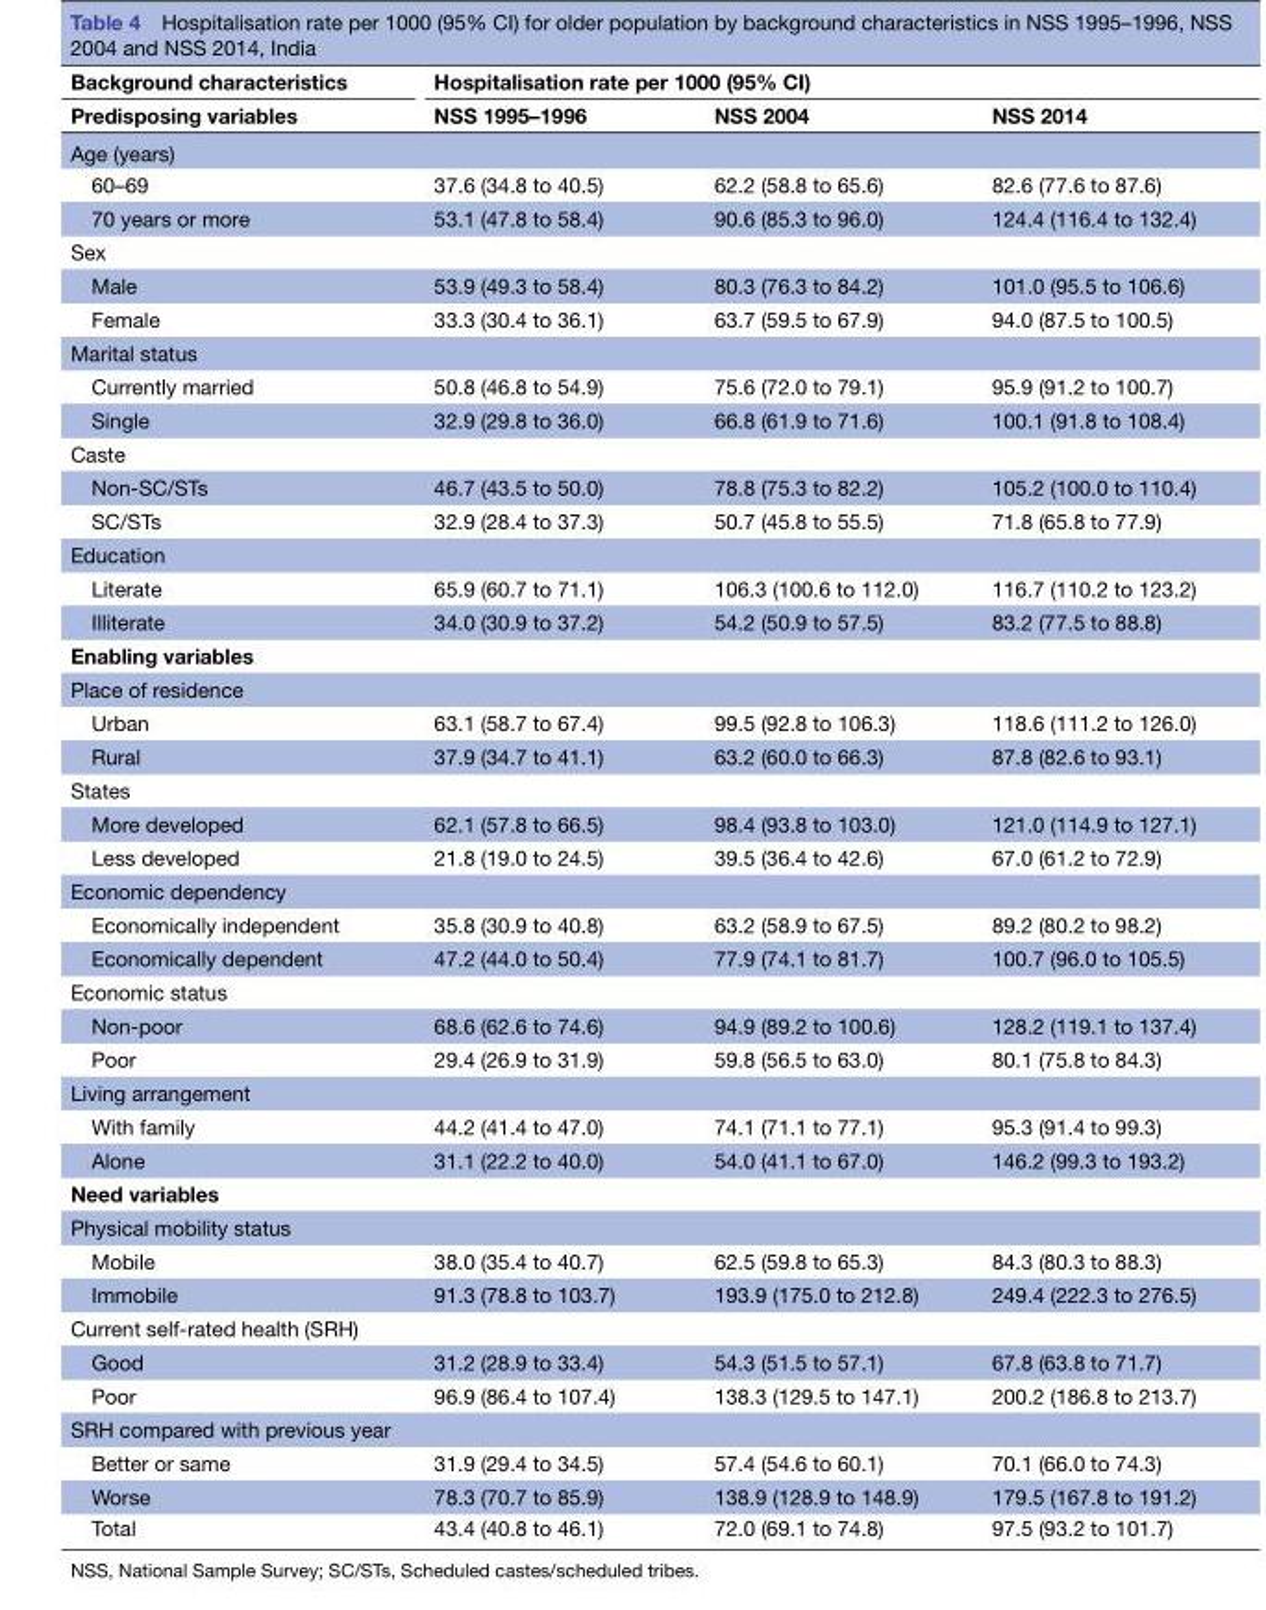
<table><thead><tr><td rowspan="2">Background characteristics Predisposing variables</td><td colspan="3">Hospitalisation rate per 1000 (95% CI)</td></tr><tr><td>NSS 1995–1996</td><td>NSS 2004</td><td>NSS 2014</td></tr></thead><tbody><tr><td colspan="4">Age (years)</td></tr><tr><td>60–69</td><td>37.6 (34.8 to 40.5)</td><td>62.2 (58.8 to 65.6)</td><td>82.6 (77.6 to 87.6)</td></tr><tr><td>70 years or more</td><td>53.1 (47.8 to 58.4)</td><td>90.6 (85.3 to 96.0)</td><td>124.4 (116.4 to 132.4)</td></tr><tr><td colspan="4">Sex</td></tr><tr><td>Male</td><td>53.9 (49.3 to 58.4)</td><td>80.3 (76.3 to 84.2)</td><td>101.0 (95.5 to 106.6)</td></tr><tr><td>Female</td><td>33.3 (30.4 to 36.1)</td><td>63.7 (59.5 to 67.9)</td><td>94.0 (87.5 to 100.5)</td></tr><tr><td colspan="4">Marital status</td></tr><tr><td>Currently married</td><td>50.8 (46.8 to 54.9)</td><td>75.6 (72.0 to 79.1)</td><td>95.9 (91.2 to 100.7)</td></tr><tr><td>Single</td><td>32.9 (29.8 to 36.0)</td><td>66.8 (61.9 to 71.6)</td><td>100.1 (91.8 to 108.4)</td></tr><tr><td colspan="4">Caste</td></tr><tr><td>Non-SC/STs</td><td>46.7 (43.5 to 50.0)</td><td>78.8 (75.3 to 82.2)</td><td>105.2 (100.0 to 110.4)</td></tr><tr><td>SC/STs</td><td>32.9 (28.4 to 37.3)</td><td>50.7 (45.8 to 55.5)</td><td>71.8 (65.8 to 77.9)</td></tr><tr><td colspan="4">Education</td></tr><tr><td>Literate</td><td>65.9 (60.7 to 71.1)</td><td>106.3 (100.6 to 112.0)</td><td>116.7 (110.2 to 123.2)</td></tr><tr><td>Illiterate</td><td>34.0 (30.9 to 37.2)</td><td>54.2 (50.9 to 57.5)</td><td>83.2 (77.5 to 88.8)</td></tr><tr><td colspan="4">Enabling variables</td></tr><tr><td colspan="4">Place of residence</td></tr><tr><td>Urban</td><td>63.1 (58.7 to 67.4)</td><td>99.5 (92.8 to 106.3)</td><td>118.6 (111.2 to 126.0)</td></tr><tr><td>Rural</td><td>37.9 (34.7 to 41.1)</td><td>63.2 (60.0 to 66.3)</td><td>87.8 (82.6 to 93.1)</td></tr><tr><td colspan="4">States</td></tr><tr><td>More developed</td><td>62.1 (57.8 to 66.5)</td><td>98.4 (93.8 to 103.0)</td><td>121.0 (114.9 to 127.1)</td></tr><tr><td>Less developed</td><td>21.8 (19.0 to 24.5)</td><td>39.5 (36.4 to 42.6)</td><td>67.0 (61.2 to 72.9)</td></tr><tr><td colspan="4">Economic dependency</td></tr><tr><td>Economically independent</td><td>35.8 (30.9 to 40.8)</td><td>63.2 (58.9 to 67.5)</td><td>89.2 (80.2 to 98.2)</td></tr><tr><td>Economically dependent</td><td>47.2 (44.0 to 50.4)</td><td>77.9 (74.1 to 81.7)</td><td>100.7 (96.0 to 105.5)</td></tr><tr><td colspan="4">Economic status</td></tr><tr><td>Non-poor</td><td>68.6 (62.6 to 74.6)</td><td>94.9 (89.2 to 100.6)</td><td>128.2 (119.1 to 137.4)</td></tr><tr><td>Poor</td><td>29.4 (26.9 to 31.9)</td><td>59.8 (56.5 to 63.0)</td><td>80.1 (75.8 to 84.3)</td></tr><tr><td colspan="4">Living arrangement</td></tr><tr><td>With family</td><td>44.2 (41.4 to 47.0)</td><td>74.1 (71.1 to 77.1)</td><td>95.3 (91.4 to 99.3)</td></tr><tr><td>Alone</td><td>31.1 (22.2 to 40.0)</td><td>54.0 (41.1 to 67.0)</td><td>146.2 (99.3 to 193.2)</td></tr><tr><td colspan="4">Need variables</td></tr><tr><td colspan="4">Physical mobility status</td></tr><tr><td>Mobile</td><td>38.0 (35.4 to 40.7)</td><td>62.5 (59.8 to 65.3)</td><td>84.3 (80.3 to 88.3)</td></tr><tr><td>Immobile</td><td>91.3 (78.8 to 103.7)</td><td>193.9 (175.0 to 212.8)</td><td>249.4 (222.3 to 276.5)</td></tr><tr><td colspan="4">Current self-rated health (SRH)</td></tr><tr><td>Good</td><td>31.2 (28.9 to 33.4)</td><td>54.3 (51.5 to 57.1)</td><td>67.8 (63.8 to 71.7)</td></tr><tr><td>Poor</td><td>96.9 (86.4 to 107.4)</td><td>138.3 (129.5 to 147.1)</td><td>200.2 (186.8 to 213.7)</td></tr><tr><td colspan="4">SRH compared with previous year</td></tr><tr><td>Better or same</td><td>31.9 (29.4 to 34.5)</td><td>57.4 (54.6 to 60.1)</td><td>70.1 (66.0 to 74.3)</td></tr><tr><td>Worse</td><td>78.3 (70.7 to 85.9)</td><td>138.9 (128.9 to 148.9)</td><td>179.5 (167.8 to 191.2)</td></tr><tr><td>Total</td><td>43.4 (40.8 to 46.1)</td><td>72.0 (69.1 to 74.8)</td><td>97.5 (93.2 to 101.7)</td></tr></tbody></table>